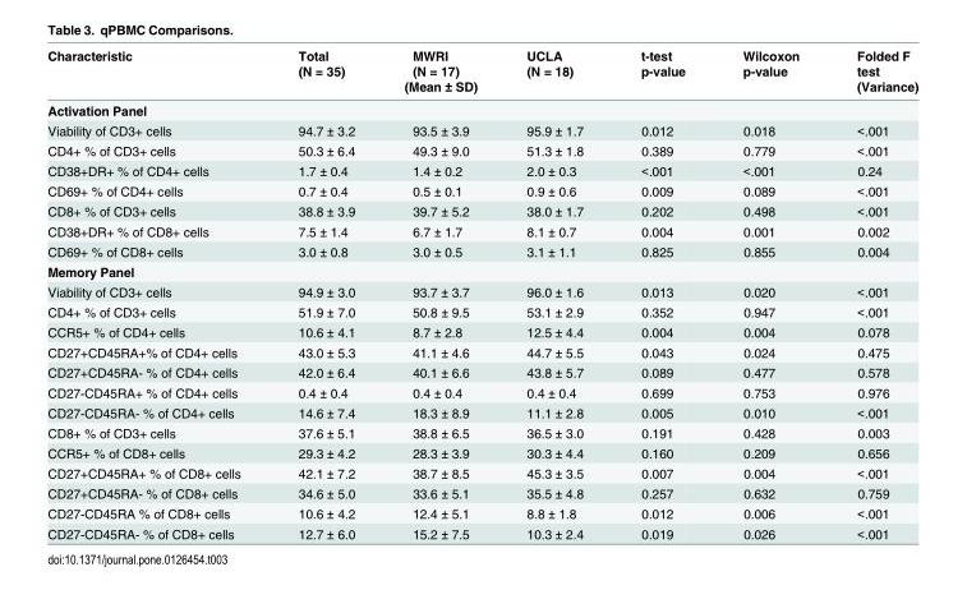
<table><thead><tr><td rowspan="3">Characteristic</td><td rowspan="2">Total (N = 35)</td><td rowspan="2">MWRI (N = 17)</td><td rowspan="2">UCLA (N = 18)</td><td rowspan="3">t-test p-value</td><td rowspan="3">Wilcoxon p-value</td><td rowspan="3">Folded F test (Variance)</td></tr><tr></tr><tr><td colspan="3">(Mean ± SD)</td></tr></thead><tbody><tr><td colspan="7">Activation Panel</td></tr><tr><td>Viability of CD3+ cells</td><td>94.7 ± 3.2</td><td>93.5 ± 3.9</td><td>95.9 ± 1.7</td><td>0.012</td><td>0.018</td><td>&lt;.001</td></tr><tr><td>CD4+ % of CD3+ cells</td><td>50.3 ± 6.4</td><td>49.3 ± 9.0</td><td>51.3 ± 1.8</td><td>0.389</td><td>0.779</td><td>&lt;.001</td></tr><tr><td>CD38+DR+ % of CD4+ cells</td><td>1.7 ± 0.4</td><td>1.4 ± 0.2</td><td>2.0 ± 0.3</td><td>&lt;.001</td><td>&lt;.001</td><td>0.24</td></tr><tr><td>CD69+ % of CD4+ cells</td><td>0.7 ± 0.4</td><td>0.5 ± 0.1</td><td>0.9 ± 0.6</td><td>0.009</td><td>0.089</td><td>&lt;.001</td></tr><tr><td>CD8+ % of CD3+ cells</td><td>38.8 ± 3.9</td><td>39.7 ± 5.2</td><td>38.0 ± 1.7</td><td>0.202</td><td>0.498</td><td>&lt;.001</td></tr><tr><td>CD38+DR+ % of CD8+ cells</td><td>7.5 ± 1.4</td><td>6.7 ± 1.7</td><td>8.1 ± 0.7</td><td>0.004</td><td>0.001</td><td>0.002</td></tr><tr><td>CD69+ % of CD8+ cells</td><td>3.0 ± 0.8</td><td>3.0 ± 0.5</td><td>3.1 ± 1.1</td><td>0.825</td><td>0.855</td><td>0.004</td></tr><tr><td colspan="7">Memory Panel</td></tr><tr><td>Viability of CD3+ cells</td><td>94.9 ± 3.0</td><td>93.7 ± 3.7</td><td>96.0 ± 1.6</td><td>0.013</td><td>0.020</td><td>&lt;.001</td></tr><tr><td>CD4+ % of CD3+ cells</td><td>51.9 ± 7.0</td><td>50.8 ± 9.5</td><td>53.1 ± 2.9</td><td>0.352</td><td>0.947</td><td>&lt;.001</td></tr><tr><td>CCR5+ % of CD4+ cells</td><td>10.6 ± 4.1</td><td>8.7 ± 2.8</td><td>12.5 ± 4.4</td><td>0.004</td><td>0.004</td><td>0.078</td></tr><tr><td>CD27+CD45RA+% of CD4+ cells</td><td>43.0 ± 5.3</td><td>41.1 ± 4.6</td><td>44.7 ± 5.5</td><td>0.043</td><td>0.024</td><td>0.475</td></tr><tr><td>CD27+CD45RA- % of CD4+ cells</td><td>42.0 ± 6.4</td><td>40.1 ± 6.6</td><td>43.8 ± 5.7</td><td>0.089</td><td>0.477</td><td>0.578</td></tr><tr><td>CD27-CD45RA+ % of CD4+ cells</td><td>0.4 ± 0.4</td><td>0.4 ± 0.4</td><td>0.4 ± 0.4</td><td>0.699</td><td>0.753</td><td>0.976</td></tr><tr><td>CD27-CD45RA- % of CD4+ cells</td><td>14.6 ± 7.4</td><td>18.3 ± 8.9</td><td>11.1 ± 2.8</td><td>0.005</td><td>0.010</td><td>&lt;.001</td></tr><tr><td>CD8+ % of CD3+ cells</td><td>37.6 ± 5.1</td><td>38.8 ± 6.5</td><td>36.5 ± 3.0</td><td>0.191</td><td>0.428</td><td>0.003</td></tr><tr><td>CCR5+ % of CD8+ cells</td><td>29.3 ± 4.2</td><td>28.3 ± 3.9</td><td>30.3 ± 4.4</td><td>0.160</td><td>0.209</td><td>0.656</td></tr><tr><td>CD27+CD45RA+ % of CD8+ cells</td><td>42.1 ± 7.2</td><td>38.7 ± 8.5</td><td>45.3 ± 3.5</td><td>0.007</td><td>0.004</td><td>&lt;.001</td></tr><tr><td>CD27+CD45RA- % of CD8+ cells</td><td>34.6 ± 5.0</td><td>33.6 ± 5.1</td><td>35.5 ± 4.8</td><td>0.257</td><td>0.632</td><td>0.759</td></tr><tr><td>CD27-CD45RA % of CD8+ cells</td><td>10.6 ± 4.2</td><td>12.4 ± 5.1</td><td>8.8 ± 1.8</td><td>0.012</td><td>0.006</td><td>&lt;.001</td></tr><tr><td>CD27-CD45RA- % of CD8+ cells</td><td>12.7 ± 6.0</td><td>15.2 ± 7.5</td><td>10.3 ± 2.4</td><td>0.019</td><td>0.026</td><td>&lt;.001</td></tr></tbody></table>